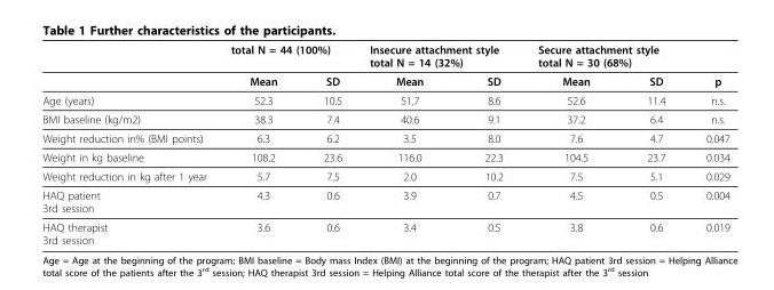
<table><thead><tr><td rowspan="2"></td><td colspan="2">total N = 44 (100%)</td><td colspan="2">Insecure attachment style total N = 14 (32%)</td><td colspan="2">Secure attachment style total N = 30 (68%)</td><td rowspan="2">p</td></tr><tr><td>Mean</td><td>SD</td><td>Mean</td><td>SD</td><td>Mean</td><td>SD</td></tr></thead><tbody><tr><td>Age (years)</td><td>52.3</td><td>10.5</td><td>51.7</td><td>8.6</td><td>52.6</td><td>11.4</td><td>n.s.</td></tr><tr><td>BMI baseline (kg/m2)</td><td>38.3</td><td>7.4</td><td>40.6</td><td>9.1</td><td>37.2</td><td>6.4</td><td>n.s.</td></tr><tr><td>Weight reduction in% (BMI points)</td><td>6.3</td><td>6.2</td><td>3.5</td><td>8.0</td><td>7.6</td><td>4.7</td><td>0.047</td></tr><tr><td>Weight in kg baseline</td><td>108.2</td><td>23.6</td><td>116.0</td><td>22.3</td><td>104.5</td><td>23.7</td><td>0.034</td></tr><tr><td>Weight reduction in kg after 1 year</td><td>5.7</td><td>7.5</td><td>2.0</td><td>10.2</td><td>7.5</td><td>5.1</td><td>0.029</td></tr><tr><td>HAQ patient 3rd session</td><td>4.3</td><td>0.6</td><td>3.9</td><td>0.7</td><td>4.5</td><td>0.5</td><td>0.004</td></tr><tr><td>HAQ therapist 3rd session</td><td>3.6</td><td>0.6</td><td>3.4</td><td>0.5</td><td>3.8</td><td>0.6</td><td>0.019</td></tr></tbody></table>